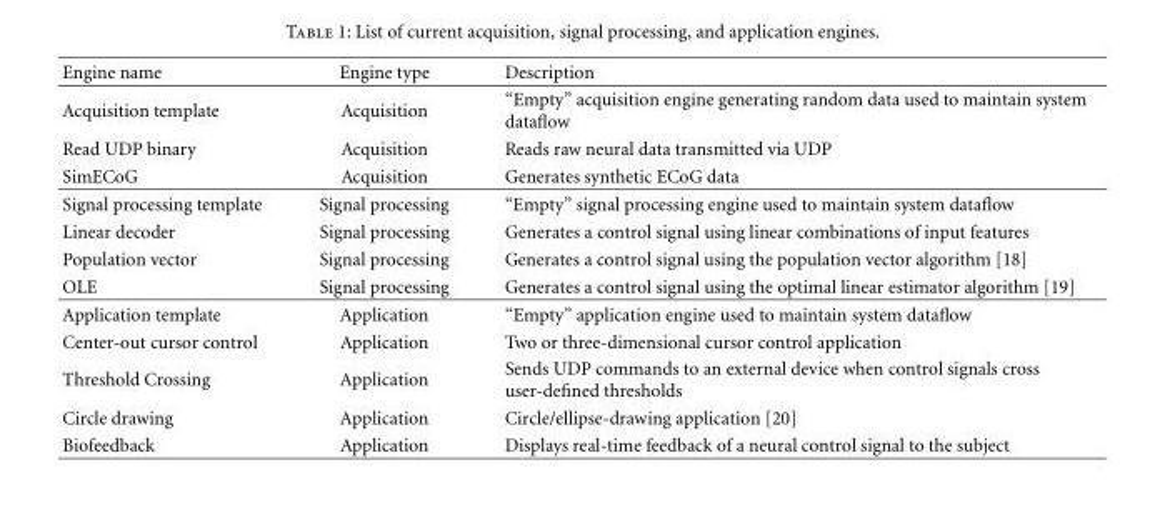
<table><thead><tr><td>Engine name</td><td>Engine type</td><td>Description</td></tr></thead><tbody><tr><td>Acquisition template</td><td>Acquisition</td><td>“Empty” acquisition engine generating random data used to maintain system dataflow</td></tr><tr><td>Read UDP binary</td><td>Acquisition</td><td>Reads raw neural data transmitted via UDP</td></tr><tr><td>SimECoG</td><td>Acquisition</td><td>Generates synthetic ECoG data</td></tr><tr><td>Signal processing template</td><td>Signal processing</td><td>“Empty” signal processing engine used to maintain system dataflow</td></tr><tr><td>Linear decoder</td><td>Signal processing</td><td>Generates a control signal using linear combinations of input features</td></tr><tr><td>Population vector</td><td>Signal processing</td><td>Generates a control signal using the population vector algorithm [18]</td></tr><tr><td>OLE</td><td>Signal processing</td><td>Generates a control signal using the optimal linear estimator algorithm [19]</td></tr><tr><td>Application template</td><td>Application</td><td>“Empty” application engine used to maintain system dataflow</td></tr><tr><td>Center-out cursor control</td><td>Application</td><td>Two or three-dimensional cursor control application</td></tr><tr><td>Threshold Crossing</td><td>Application</td><td>Sends UDP commands to an external device when control signals cross user-defined thresholds</td></tr><tr><td>Circle drawing</td><td>Application</td><td>Circle/ellipse-drawing application [20]</td></tr><tr><td>Biofeedback</td><td>Application</td><td>Displays real-time feedback of a neural control signal to the subject</td></tr></tbody></table>